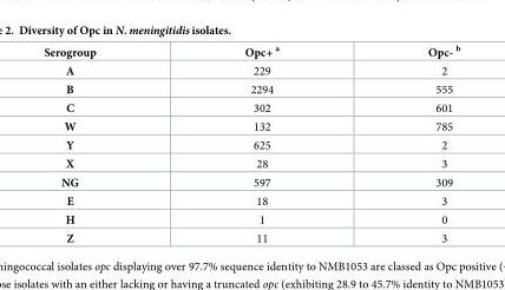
<table><thead><tr><td>Serogroup</td><td>Opc+ <sup>a</sup></td><td>Opc- <sup>b</sup></td></tr></thead><tbody><tr><td>A</td><td>229</td><td>2</td></tr><tr><td>B</td><td>2294</td><td>555</td></tr><tr><td>C</td><td>302</td><td>601</td></tr><tr><td>W</td><td>132</td><td>785</td></tr><tr><td>Y</td><td>625</td><td>2</td></tr><tr><td>X</td><td>28</td><td>3</td></tr><tr><td>NG</td><td>597</td><td>309</td></tr><tr><td>E</td><td>18</td><td>3</td></tr><tr><td>H</td><td>1</td><td>0</td></tr><tr><td>Z</td><td>11</td><td>3</td></tr></tbody></table>